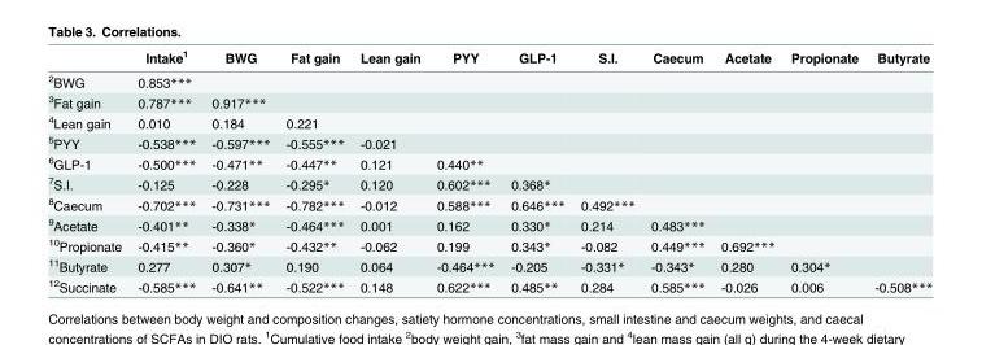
<table><thead><tr><td></td><td>Intake<sup>1</sup></td><td>BWG</td><td>Fat gain</td><td>Lean gain</td><td>PYY</td><td>GLP-1</td><td>S.I.</td><td>Caecum</td><td>Acetate</td><td>Propionate</td><td>Butyrate</td></tr></thead><tbody><tr><td><sup>2</sup>BWG</td><td>0.853***</td><td></td><td></td><td></td><td></td><td></td><td></td><td></td><td></td><td></td><td></td></tr><tr><td><sup>3</sup>Fat gain</td><td>0.787***</td><td>0.917***</td><td></td><td></td><td></td><td></td><td></td><td></td><td></td><td></td><td></td></tr><tr><td><sup>4</sup>Lean gain</td><td>0.010</td><td>0.184</td><td>0.221</td><td></td><td></td><td></td><td></td><td></td><td></td><td></td><td></td></tr><tr><td><sup>5</sup>PYY</td><td>-0.538***</td><td>-0.597***</td><td>-0.555***</td><td>-0.021</td><td></td><td></td><td></td><td></td><td></td><td></td><td></td></tr><tr><td><sup>6</sup>GLP-1</td><td>-0.500***</td><td>-0.471**</td><td>-0.447**</td><td>0.121</td><td>0.440**</td><td></td><td></td><td></td><td></td><td></td><td></td></tr><tr><td><sup>7</sup>S.I.</td><td>-0.125</td><td>-0.228</td><td>-0.295*</td><td>0.120</td><td>0.602***</td><td>0.368*</td><td></td><td></td><td></td><td></td><td></td></tr><tr><td><sup>8</sup>Caecum</td><td>-0.702***</td><td>-0.731***</td><td>-0.782***</td><td>-0.012</td><td>0.588***</td><td>0.646***</td><td>0.492***</td><td></td><td></td><td></td><td></td></tr><tr><td><sup>9</sup>Acetate</td><td>-0.401**</td><td>-0.338*</td><td>-0.464***</td><td>0.001</td><td>0.162</td><td>0.330*</td><td>0.214</td><td>0.483***</td><td></td><td></td><td></td></tr><tr><td><sup>10</sup>Propionate</td><td>-0.415**</td><td>-0.360*</td><td>-0.432**</td><td>-0.062</td><td>0.199</td><td>0.343*</td><td>-0.082</td><td>0.449***</td><td>0.692***</td><td></td><td></td></tr><tr><td><sup>11</sup>Butyrate</td><td>0.277</td><td>0.307*</td><td>0.190</td><td>0.064</td><td>-0.464***</td><td>-0.205</td><td>-0.331*</td><td>-0.343*</td><td>0.280</td><td>0.304*</td><td></td></tr><tr><td><sup>12</sup>Succinate</td><td>-0.585***</td><td>-0.641**</td><td>-0.522***</td><td>0.148</td><td>0.622***</td><td>0.485**</td><td>0.284</td><td>0.585***</td><td>-0.026</td><td>0.006</td><td>-0.508***</td></tr></tbody></table>